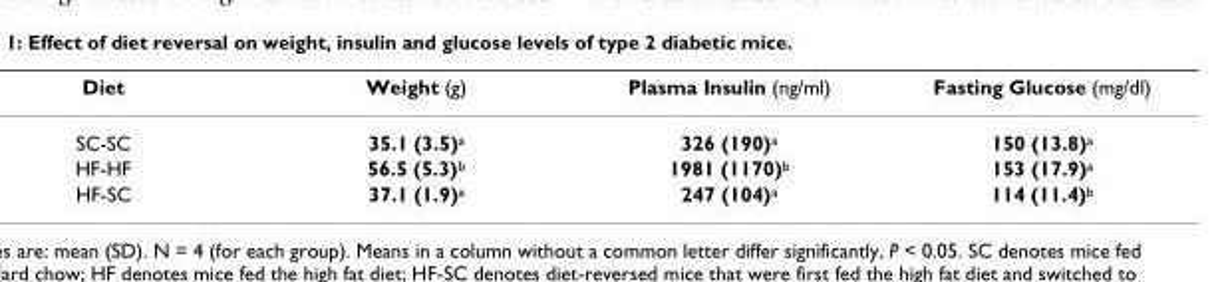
<table><thead><tr><td>Diet</td><td>Weight (g)</td><td>Plasma Insulin (ng/ml)</td><td>Fasting Glucose (mg/dl)</td></tr></thead><tbody><tr><td>SC-SC</td><td>35.1 (3.5)<sup>a</sup></td><td>326 (190)<sup>a</sup></td><td>150 (13.8)<sup>a</sup></td></tr><tr><td>HF-HF</td><td>56.5 (5.3)<sup>b</sup></td><td>1981 (1170)<sup>b</sup></td><td>153 (17.9)<sup>a</sup></td></tr><tr><td>HF-SC</td><td>37.1 (1.9)<sup>a</sup></td><td>247 (104)<sup>a</sup></td><td>114 (11.4)<sup>b</sup></td></tr></tbody></table>